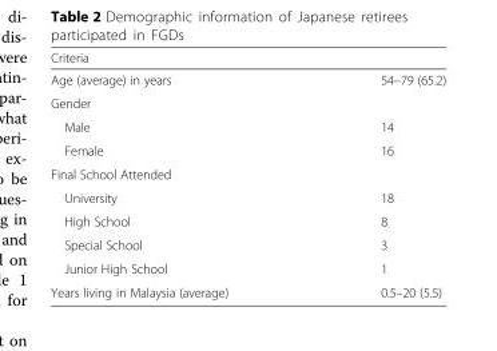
<table><thead><tr><td colspan="2">Criteria</td></tr><tr><td>Age (average) in years</td><td>54–79 (65.2)</td></tr></thead><tbody><tr><td colspan="2">Gender</td></tr><tr><td>Male</td><td>14</td></tr><tr><td>Female</td><td>16</td></tr><tr><td colspan="2">Final School Attended</td></tr><tr><td>University</td><td>18</td></tr><tr><td>High School</td><td>8</td></tr><tr><td>Special School</td><td>3</td></tr><tr><td>Junior High School</td><td>1</td></tr><tr><td>Years living in Malaysia (average)</td><td>0.5–20 (5.5)</td></tr></tbody></table>